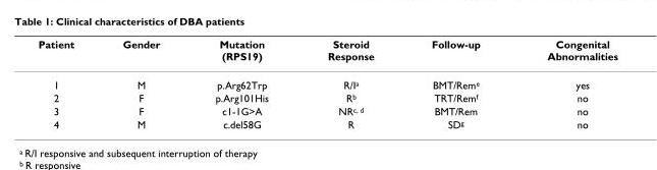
<table><thead><tr><td>Patient</td><td>Gender</td><td>Mutation (RPS19)</td><td>Steroid Response</td><td>Follow-up</td><td>Congenital Abnormalities</td></tr></thead><tbody><tr><td>1</td><td>M</td><td>p.Arg62Trp</td><td>R/I<sup>a</sup></td><td>BMT/Rem<sup>e</sup></td><td>yes</td></tr><tr><td>2</td><td>F</td><td>p.Arg101His</td><td>R<sup>b</sup></td><td>TRT/Rem<sup>f</sup></td><td>no</td></tr><tr><td>3</td><td>F</td><td>c1-1G&gt;A</td><td>NR<sup>c, d</sup></td><td>BMT/Rem</td><td>no</td></tr><tr><td>4</td><td>M</td><td>c.del58G</td><td>R</td><td>SD<sup>g</sup></td><td>no</td></tr></tbody></table>